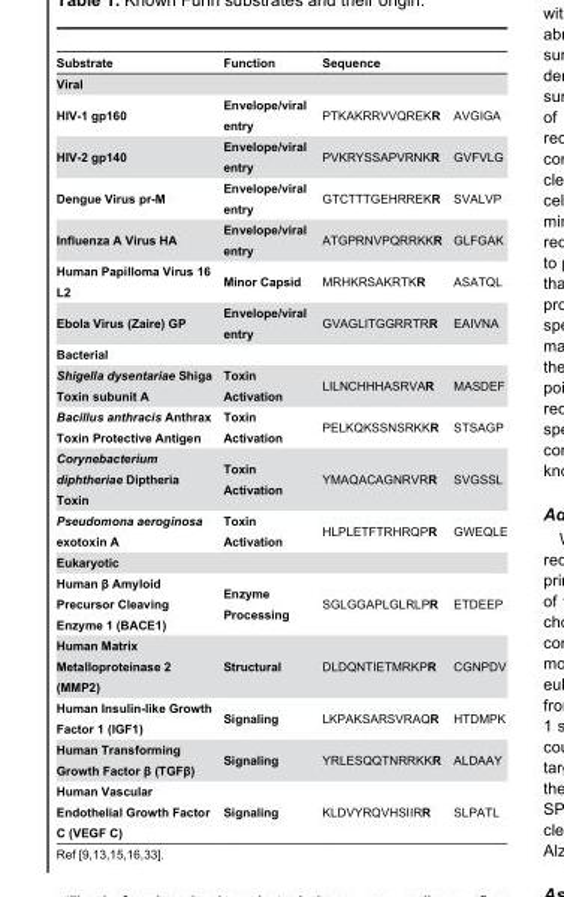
<table><thead><tr><td>Substrate</td><td>Function</td><td colspan="2">Sequence</td></tr><tr><td colspan="4">Viral</td></tr><tr><td>HIV-1 gp160</td><td>Envelope/viral entry</td><td>PTKAKRRVVQREKR</td><td>AVGIGA</td></tr></thead><tbody><tr><td>HIV-2 gp140</td><td>Envelope/viral entry</td><td>PVKRYSSAPVRNKR</td><td>GVFVLG</td></tr><tr><td>Dengue Virus pr-M</td><td>Envelope/viral entry</td><td>GTCTTTGEHRREKR</td><td>SVALVP</td></tr><tr><td>Influenza A Virus HA</td><td>Envelope/viral entry</td><td>ATGPRNVPQRRKKR</td><td>GLFGAK</td></tr><tr><td>Human Papilloma Virus 16 L2</td><td>Minor Capsid</td><td>MRHKRSAKRTKR</td><td>ASATQL</td></tr><tr><td>Ebola Virus (Zaire) GP</td><td>Envelope/viral entry</td><td>GVAGLITGGRRTRR</td><td>EAIVNA</td></tr><tr><td colspan="4">Bacterial</td></tr><tr><td>Shigella dysentariae Shiga Toxin subunit A</td><td>Toxin Activation</td><td>LILNCHHHASRVAR</td><td>MASDEF</td></tr><tr><td>Bacillus anthracis Anthrax Toxin Protective Antigen</td><td>Toxin Activation</td><td>PELKQKSSNSRKKR</td><td>STSAGP</td></tr><tr><td>Corynebacterium diphtheriae Diptheria Toxin</td><td>Toxin Activation</td><td>YMAQACAGNRVRR</td><td>SVGSSL</td></tr><tr><td>Pseudomona aeroginosa exotoxin A</td><td>Toxin Activation</td><td>HLPLETFTRHRQPR</td><td>GWEQLE</td></tr><tr><td colspan="4">Eukaryotic</td></tr><tr><td>Human β Amyloid Precursor Cleaving Enzyme 1 (BACE1)</td><td>Enzyme Processing</td><td>SGLGGAPLGLRLPR</td><td>ETDEEP</td></tr><tr><td>Human Matrix Metalloproteinase 2 (MMP2)</td><td>Structural</td><td>DLDQNTIETMRKPR</td><td>CGNPDV</td></tr><tr><td>Human Insulin-like Growth Factor 1 (IGF1)</td><td>Signaling</td><td>LKPAKSARSVRAQR</td><td>HTDMPK</td></tr><tr><td>Human Transforming Growth Factor β (TGFβ)</td><td>Signaling</td><td>YRLESQQTNRRKKR</td><td>ALDAAY</td></tr><tr><td>Human Vascular Endothelial Growth Factor C (VEGF C)</td><td>Signaling</td><td>KLDVYRQVHSIIRR</td><td>SLPATL</td></tr></tbody></table>